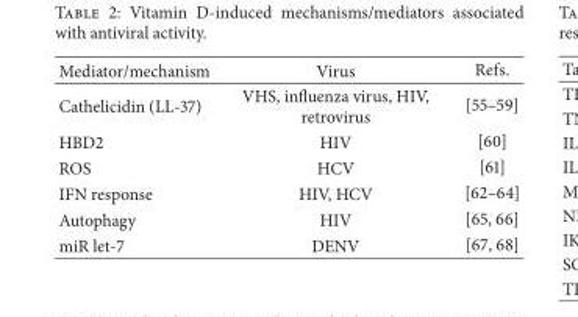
<table><thead><tr><td>Mediator/mechanism</td><td>Virus</td><td>Refs.</td></tr></thead><tbody><tr><td>Cathelicidin (LL-37)</td><td>VHS, influenza virus, HIV, retrovirus</td><td>[55–59]</td></tr><tr><td>HBD2</td><td>HIV</td><td>[60]</td></tr><tr><td>ROS</td><td>HCV</td><td>[61]</td></tr><tr><td>IFN response</td><td>HIV, HCV</td><td>[62–64]</td></tr><tr><td>Autophagy</td><td>HIV</td><td>[65, 66]</td></tr><tr><td>miR let-7</td><td>DENV</td><td>[67, 68]</td></tr></tbody></table>